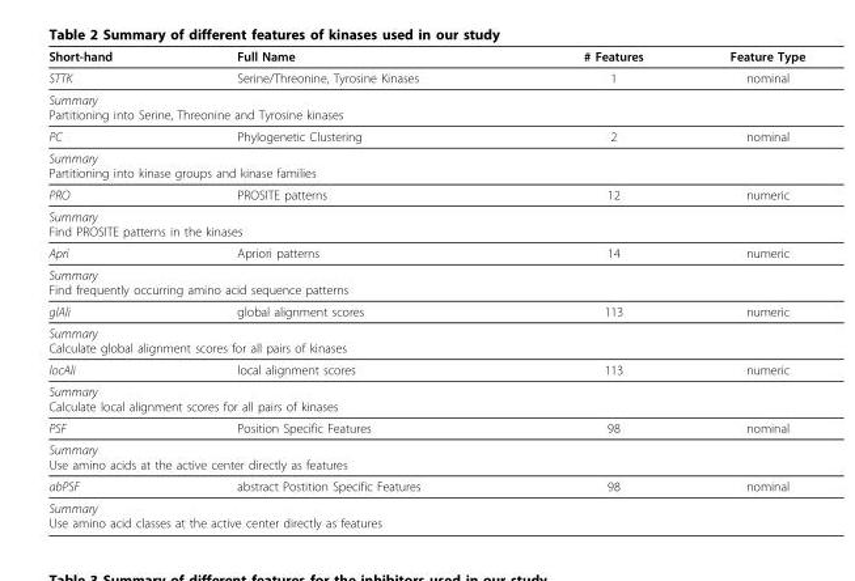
<table><thead><tr><td>Short-hand</td><td>Full Name</td><td># Features</td><td>Feature Type</td></tr></thead><tbody><tr><td>STTK</td><td>Serine/Threonine, Tyrosine Kinases</td><td>1</td><td>nominal</td></tr><tr><td colspan="4">Summary Partitioning into Serine, Threonine and Tyrosine kinases</td></tr><tr><td>PC</td><td>Phylogenetic Clustering</td><td>2</td><td>nominal</td></tr><tr><td colspan="4">Summary Partitioning into kinase groups and kinase families</td></tr><tr><td>PRO</td><td>PROSITE patterns</td><td>12</td><td>numeric</td></tr><tr><td colspan="4">Summary Find PROSITE patterns in the kinases</td></tr><tr><td>Apri</td><td>Apriori patterns</td><td>14</td><td>numeric</td></tr><tr><td colspan="4">Summary Find frequently occurring amino acid sequence patterns</td></tr><tr><td>glAli</td><td>global alignment scores</td><td>113</td><td>numeric</td></tr><tr><td colspan="4">Summary Calculate global alignment scores for all pairs of kinases</td></tr><tr><td>locAli</td><td>local alignment scores</td><td>113</td><td>numeric</td></tr><tr><td colspan="4">Summary Calculate local alignment scores for all pairs of kinases</td></tr><tr><td>PSF</td><td>Position Specific Features</td><td>98</td><td>nominal</td></tr><tr><td colspan="4">Summary Use amino acids at the active center directly as features</td></tr><tr><td>abPSF</td><td>abstract Postition Specific Features</td><td>98</td><td>nominal</td></tr><tr><td colspan="2">Summary Use amino acid classes at the active center directly as features</td><td></td><td></td></tr></tbody></table>